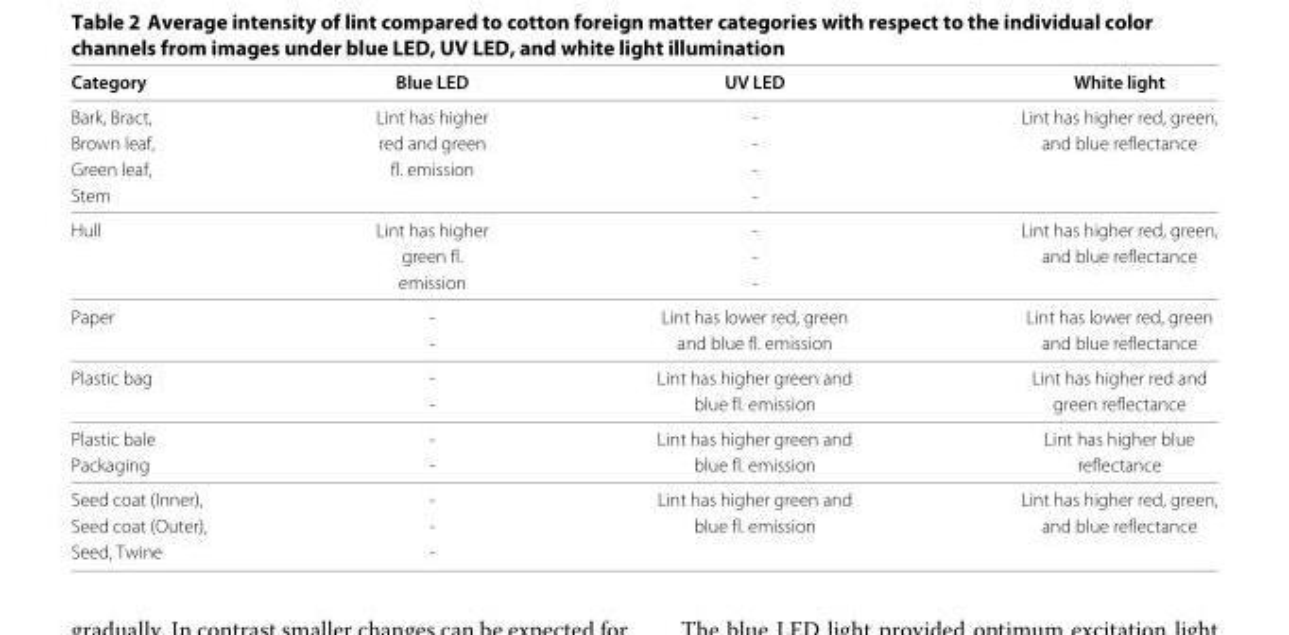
<table><thead><tr><td>Category</td><td>Blue LED</td><td>UV LED</td><td>White light</td></tr></thead><tbody><tr><td>Bark, Bract,</td><td>Lint has higher</td><td>-</td><td>Lint has higher red, green,</td></tr><tr><td>Brown leaf,</td><td>red and green</td><td>-</td><td>and blue reflectance</td></tr><tr><td>Green leaf,</td><td>fl. emission</td><td>-</td><td></td></tr><tr><td>Stem</td><td></td><td>-</td><td></td></tr><tr><td rowspan="3">Hull</td><td>Lint has higher</td><td>-</td><td>Lint has higher red, green,</td></tr><tr><td>green fl.</td><td>-</td><td>and blue reflectance</td></tr><tr><td>emission</td><td>-</td><td></td></tr><tr><td rowspan="2">Paper</td><td>-</td><td>Lint has lower red, green</td><td>Lint has lower red, green</td></tr><tr><td>-</td><td>and blue fl. emission</td><td>and blue reflectance</td></tr><tr><td rowspan="2">Plastic bag</td><td>-</td><td>Lint has higher green and</td><td>Lint has higher red and</td></tr><tr><td>-</td><td>blue fl. emission</td><td>green reflectance</td></tr><tr><td>Plastic bale</td><td>-</td><td>Lint has higher green and</td><td>Lint has higher blue</td></tr><tr><td>Packaging</td><td>-</td><td>blue fl. emission</td><td>reflectance</td></tr><tr><td>Seed coat (Inner),</td><td>-</td><td>Lint has higher green and</td><td>Lint has higher red, green,</td></tr><tr><td>Seed coat (Outer),</td><td>-</td><td>blue fl. emission</td><td>and blue reflectance</td></tr><tr><td>Seed, Twine</td><td>-</td><td></td><td></td></tr></tbody></table>